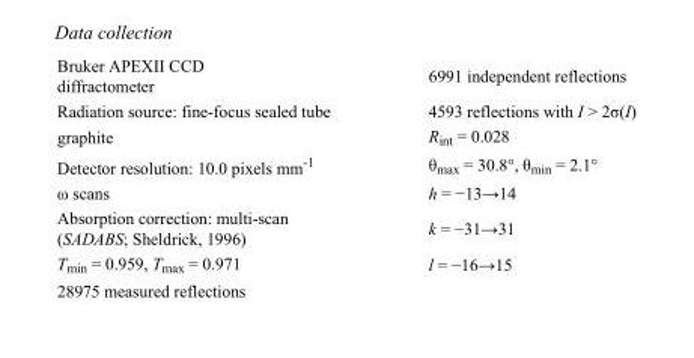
<table><tbody><tr><td>Bruker APEXII CCD diffractometer</td><td>6991 independent reflections</td></tr><tr><td>Radiation source: fine-focus sealed tube</td><td>4593 reflections with I &gt; 2σ(I)</td></tr><tr><td>graphite</td><td>R<sub>int</sub> = 0.028</td></tr><tr><td>Detector resolution: 10.0 pixels mm<sup>-1</sup></td><td>θ<sub>max</sub> = 30.8°, θ<sub>min</sub> = 2.1°</td></tr><tr><td>ω scans</td><td>h = −13→14</td></tr><tr><td>Absorption correction: multi-scan (SADABS; Sheldrick, 1996)</td><td>k = −31→31</td></tr><tr><td>T<sub>min</sub> = 0.959, T<sub>max</sub> = 0.971</td><td>l = −16→15</td></tr><tr><td>28975 measured reflections</td><td></td></tr></tbody></table>